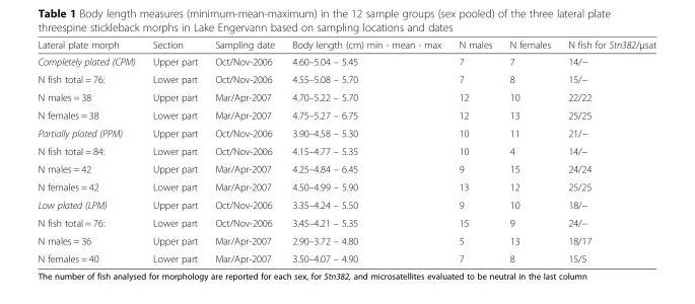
<table><thead><tr><td>Lateral plate morph</td><td>Section</td><td>Sampling date</td><td>Body length (cm) min - mean - max</td><td>N males</td><td>N females</td><td>N fish for Stn382/μsat</td></tr></thead><tbody><tr><td>Completely plated (CPM)</td><td>Upper part</td><td>Oct/Nov-2006</td><td>4.60–5.04 – 5.45</td><td>7</td><td>7</td><td>14/−</td></tr><tr><td>N fish total = 76:</td><td>Lower part</td><td>Oct/Nov-2006</td><td>4.55–5.08 – 5.70</td><td>7</td><td>8</td><td>15/−</td></tr><tr><td>N males = 38</td><td>Upper part</td><td>Mar/Apr-2007</td><td>4.70–5.22 – 5.70</td><td>12</td><td>10</td><td>22/22</td></tr><tr><td>N females = 38</td><td>Lower part</td><td>Mar/Apr-2007</td><td>4.75–5.27 – 6.75</td><td>12</td><td>13</td><td>25/25</td></tr><tr><td>Partially plated (PPM)</td><td>Upper part</td><td>Oct/Nov-2006</td><td>3.90–4.58 – 5.30</td><td>10</td><td>11</td><td>21/−</td></tr><tr><td>N fish total = 84:</td><td>Lower part</td><td>Oct/Nov-2006</td><td>4.15–4.77 – 5.35</td><td>10</td><td>4</td><td>14/−</td></tr><tr><td>N males = 42</td><td>Upper part</td><td>Mar/Apr-2007</td><td>4.25–4.84 – 6.45</td><td>9</td><td>15</td><td>24/24</td></tr><tr><td>N females = 42</td><td>Lower part</td><td>Mar/Apr-2007</td><td>4.50–4.99 – 5.90</td><td>13</td><td>12</td><td>25/25</td></tr><tr><td>Low plated (LPM)</td><td>Upper part</td><td>Oct/Nov-2006</td><td>3.35–4.24 – 5.50</td><td>9</td><td>10</td><td>18/−</td></tr><tr><td>N fish total = 76:</td><td>Lower part</td><td>Oct/Nov-2006</td><td>3.45–4.21 – 5.35</td><td>15</td><td>9</td><td>24/−</td></tr><tr><td>N males = 36</td><td>Upper part</td><td>Mar/Apr-2007</td><td>2.90–3.72 – 4.80</td><td>5</td><td>13</td><td>18/17</td></tr><tr><td>N females = 40</td><td>Lower part</td><td>Mar/Apr-2007</td><td>3.50–4.07 – 4.90</td><td>7</td><td>8</td><td>15/5</td></tr></tbody></table>